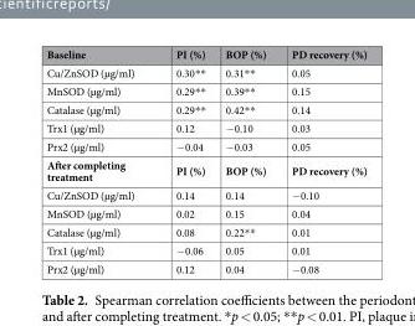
<table><thead><tr><td>Baseline</td><td>PI (%)</td><td>BOP (%)</td><td>PD recovery (%)</td></tr></thead><tbody><tr><td>Cu/ZnSOD (µg/ml)</td><td>0.30**</td><td>0.31**</td><td>0.05</td></tr><tr><td>MnSOD (µg/ml)</td><td>0.29**</td><td>0.39**</td><td>0.15</td></tr><tr><td>Catalase (µg/ml)</td><td>0.29**</td><td>0.42**</td><td>0.14</td></tr><tr><td>Trx1 (µg/ml)</td><td>0.12</td><td>−0.10</td><td>0.03</td></tr><tr><td>Prx2 (µg/ml)</td><td>−0.04</td><td>−0.03</td><td>0.05</td></tr><tr><td>After completing treatment</td><td>PI (%)</td><td>BOP (%)</td><td>PD recovery (%)</td></tr><tr><td>Cu/ZnSOD (µg/ml)</td><td>0.14</td><td>0.14</td><td>−0.10</td></tr><tr><td>MnSOD (µg/ml)</td><td>0.02</td><td>0.15</td><td>0.04</td></tr><tr><td>Catalase (µg/ml)</td><td>0.08</td><td>0.22**</td><td>0.01</td></tr><tr><td>Trx1 (µg/ml)</td><td>−0.06</td><td>0.05</td><td>0.01</td></tr><tr><td>Prx2 (µg/ml)</td><td>0.12</td><td>0.04</td><td>−0.08</td></tr></tbody></table>